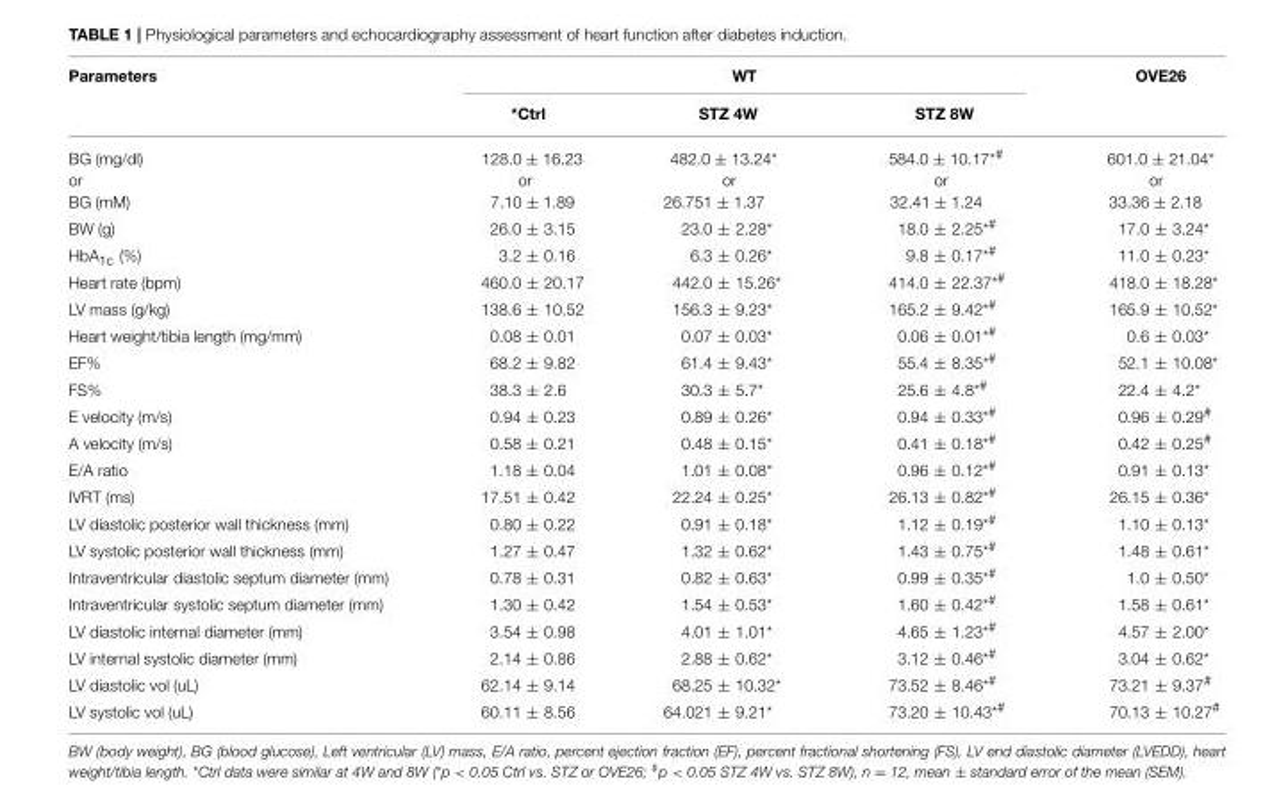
<table><thead><tr><td rowspan="2">Parameters</td><td colspan="3">WT</td><td rowspan="2">OVE26</td></tr><tr><td>*Ctrl</td><td>STZ 4W</td><td>STZ 8W</td></tr></thead><tbody><tr><td>BG (mg/dl) or BG (mM)</td><td>128.0 ± 16.23 or 7.10 ± 1.89</td><td>482.0 ± 13.24* or 26.751 ± 1.37</td><td>584.0 ± 10.17*# or 32.41 ± 1.24</td><td>601.0 ± 21.04* or 33.36 ± 2.18</td></tr><tr><td>BW (g)</td><td>26.0 ± 3.15</td><td>23.0 ± 2.28*</td><td>18.0 ± 2.25*#</td><td>17.0 ± 3.24*</td></tr><tr><td>HbA1c (%)</td><td>3.2 ± 0.16</td><td>6.3 ± 0.26*</td><td>9.8 ± 0.17*#</td><td>11.0 ± 0.23*</td></tr><tr><td>Heart rate (bpm)</td><td>460.0 ± 20.17</td><td>442.0 ± 15.26*</td><td>414.0 ± 22.37*#</td><td>418.0 ± 18.28*</td></tr><tr><td>LV mass (g/kg)</td><td>138.6 ± 10.52</td><td>156.3 ± 9.23*</td><td>165.2 ± 9.42*#</td><td>165.9 ± 10.52*</td></tr><tr><td>Heart weight/tibia length (mg/mm)</td><td>0.08 ± 0.01</td><td>0.07 ± 0.03*</td><td>0.06 ± 0.01*#</td><td>0.6 ± 0.03*</td></tr><tr><td>EF%</td><td>68.2 ± 9.82</td><td>61.4 ± 9.43*</td><td>55.4 ± 8.35*#</td><td>52.1 ± 10.08*</td></tr><tr><td>FS%</td><td>38.3 ± 2.6</td><td>30.3 ± 5.7*</td><td>25.6 ± 4.8*#</td><td>22.4 ± 4.2*</td></tr><tr><td>E velocity (m/s)</td><td>0.94 ± 0.23</td><td>0.89 ± 0.26*</td><td>0.94 ± 0.33*#</td><td>0.96 ± 0.29#</td></tr><tr><td>A velocity (m/s)</td><td>0.58 ± 0.21</td><td>0.48 ± 0.15*</td><td>0.41 ± 0.18*#</td><td>0.42 ± 0.25#</td></tr><tr><td>E/A ratio</td><td>1.18 ± 0.04</td><td>1.01 ± 0.08*</td><td>0.96 ± 0.12*#</td><td>0.91 ± 0.13*</td></tr><tr><td>IVRT (ms)</td><td>17.51 ± 0.42</td><td>22.24 ± 0.25*</td><td>26.13 ± 0.82*#</td><td>26.15 ± 0.36*</td></tr><tr><td>LV diastolic posterior wall thickness (mm)</td><td>0.80 ± 0.22</td><td>0.91 ± 0.18*</td><td>1.12 ± 0.19*#</td><td>1.10 ± 0.13*</td></tr><tr><td>LV systolic posterior wall thickness (mm)</td><td>1.27 ± 0.47</td><td>1.32 ± 0.62*</td><td>1.43 ± 0.75*#</td><td>1.48 ± 0.61*</td></tr><tr><td>Intraventricular diastolic septum diameter (mm)</td><td>0.78 ± 0.31</td><td>0.82 ± 0.63*</td><td>0.99 ± 0.35*#</td><td>1.0 ± 0.50*</td></tr><tr><td>Intraventricular systolic septum diameter (mm)</td><td>1.30 ± 0.42</td><td>1.54 ± 0.53*</td><td>1.60 ± 0.42*#</td><td>1.58 ± 0.61*</td></tr><tr><td>LV diastolic internal diameter (mm)</td><td>3.54 ± 0.98</td><td>4.01 ± 1.01*</td><td>4.65 ± 1.23*#</td><td>4.57 ± 2.00*</td></tr><tr><td>LV internal systolic diameter (mm)</td><td>2.14 ± 0.86</td><td>2.88 ± 0.62*</td><td>3.12 ± 0.46*#</td><td>3.04 ± 0.62*</td></tr><tr><td>LV diastolic vol (uL)</td><td>62.14 ± 9.14</td><td>68.25 ± 10.32*</td><td>73.52 ± 8.46*#</td><td>73.21 ± 9.37#</td></tr><tr><td>LV systolic vol (uL)</td><td>60.11 ± 8.56</td><td>64.021 ± 9.21*</td><td>73.20 ± 10.43*#</td><td>70.13 ± 10.27#</td></tr></tbody></table>